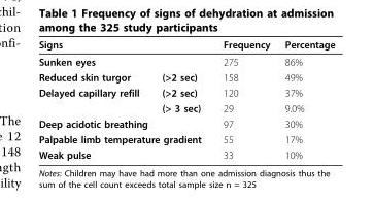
<table><thead><tr><td>Signs</td><td></td><td>Frequency</td><td>Percentage</td></tr></thead><tbody><tr><td>Sunken eyes</td><td></td><td>275</td><td>86%</td></tr><tr><td>Reduced skin turgor</td><td>(&gt;2 sec)</td><td>158</td><td>49%</td></tr><tr><td rowspan="2">Delayed capillary refill</td><td>(&gt;2 sec)</td><td>120</td><td>37%</td></tr><tr><td>(&gt; 3 sec)</td><td>29</td><td>9.0%</td></tr><tr><td colspan="2">Deep acidotic breathing</td><td>97</td><td>30%</td></tr><tr><td colspan="2">Palpable limb temperature gradient</td><td>55</td><td>17%</td></tr><tr><td>Weak pulse</td><td></td><td>33</td><td>10%</td></tr></tbody></table>